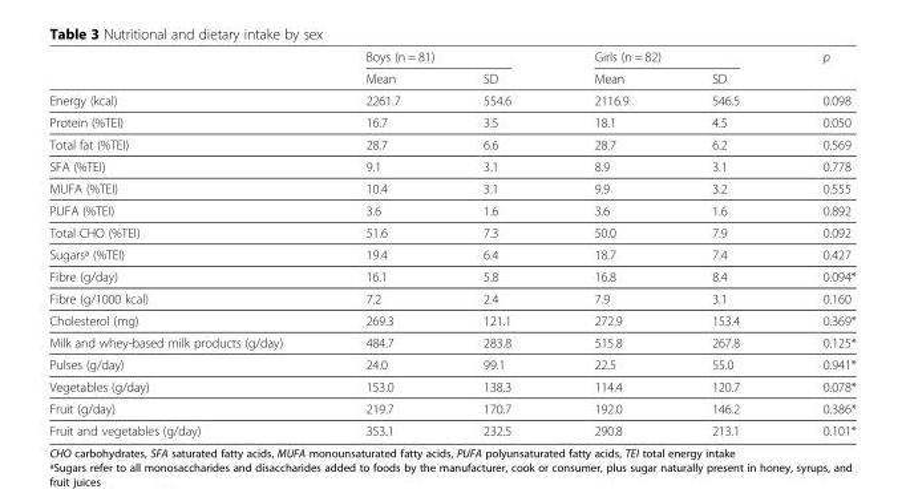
<table><thead><tr><td rowspan="2"></td><td colspan="2">Boys (n = 81)</td><td colspan="2">Girls (n = 82)</td><td rowspan="2">p</td></tr><tr><td>Mean</td><td>SD</td><td>Mean</td><td>SD</td></tr></thead><tbody><tr><td>Energy (kcal)</td><td>2261.7</td><td>554.6</td><td>2116.9</td><td>546.5</td><td>0.098</td></tr><tr><td>Protein (%TEI)</td><td>16.7</td><td>3.5</td><td>18.1</td><td>4.5</td><td>0.050</td></tr><tr><td>Total fat (%TEI)</td><td>28.7</td><td>6.6</td><td>28.7</td><td>6.2</td><td>0.569</td></tr><tr><td>SFA (%TEI)</td><td>9.1</td><td>3.1</td><td>8.9</td><td>3.1</td><td>0.778</td></tr><tr><td>MUFA (%TEI)</td><td>10.4</td><td>3.1</td><td>9.9</td><td>3.2</td><td>0.555</td></tr><tr><td>PUFA (%TEI)</td><td>3.6</td><td>1.6</td><td>3.6</td><td>1.6</td><td>0.892</td></tr><tr><td>Total CHO (%TEI)</td><td>51.6</td><td>7.3</td><td>50.0</td><td>7.9</td><td>0.092</td></tr><tr><td>Sugarsª (%TEI)</td><td>19.4</td><td>6.4</td><td>18.7</td><td>7.4</td><td>0.427</td></tr><tr><td>Fibre (g/day)</td><td>16.1</td><td>5.8</td><td>16.8</td><td>8.4</td><td>0.094*</td></tr><tr><td>Fibre (g/1000 kcal)</td><td>7.2</td><td>2.4</td><td>7.9</td><td>3.1</td><td>0.160</td></tr><tr><td>Cholesterol (mg)</td><td>269.3</td><td>121.1</td><td>272.9</td><td>153.4</td><td>0.369*</td></tr><tr><td>Milk and whey-based milk products (g/day)</td><td>484.7</td><td>283.8</td><td>515.8</td><td>267.8</td><td>0.125*</td></tr><tr><td>Pulses (g/day)</td><td>24.0</td><td>99.1</td><td>22.5</td><td>55.0</td><td>0.941*</td></tr><tr><td>Vegetables (g/day)</td><td>153.0</td><td>138.3</td><td>114.4</td><td>120.7</td><td>0.078*</td></tr><tr><td>Fruit (g/day)</td><td>219.7</td><td>170.7</td><td>192.0</td><td>146.2</td><td>0.386*</td></tr><tr><td>Fruit and vegetables (g/day)</td><td>353.1</td><td>232.5</td><td>290.8</td><td>213.1</td><td>0.101*</td></tr></tbody></table>